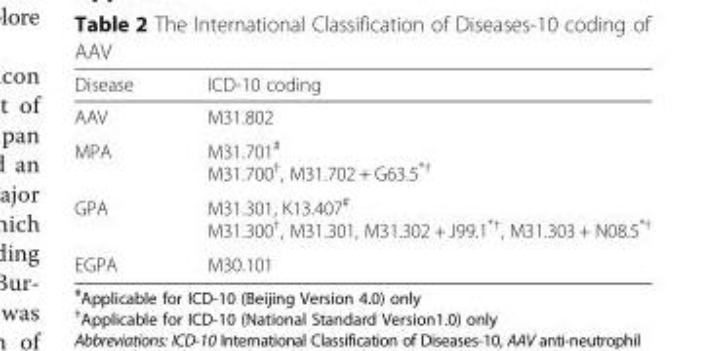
<table><thead><tr><td>Disease</td><td>ICD-10 coding</td></tr></thead><tbody><tr><td>AAV</td><td>M31.802</td></tr><tr><td>MPA</td><td>M31.701<sup>#</sup> M31.700<sup>†</sup>, M31.702 + G63.5<sup>*†</sup></td></tr><tr><td>GPA</td><td>M31.301, K13.407<sup>#</sup> M31.300<sup>†</sup>, M31.301, M31.302 + J99.1<sup>*†</sup>, M31.303 + N08.5<sup>*†</sup></td></tr><tr><td>EGPA</td><td>M30.101</td></tr></tbody></table>